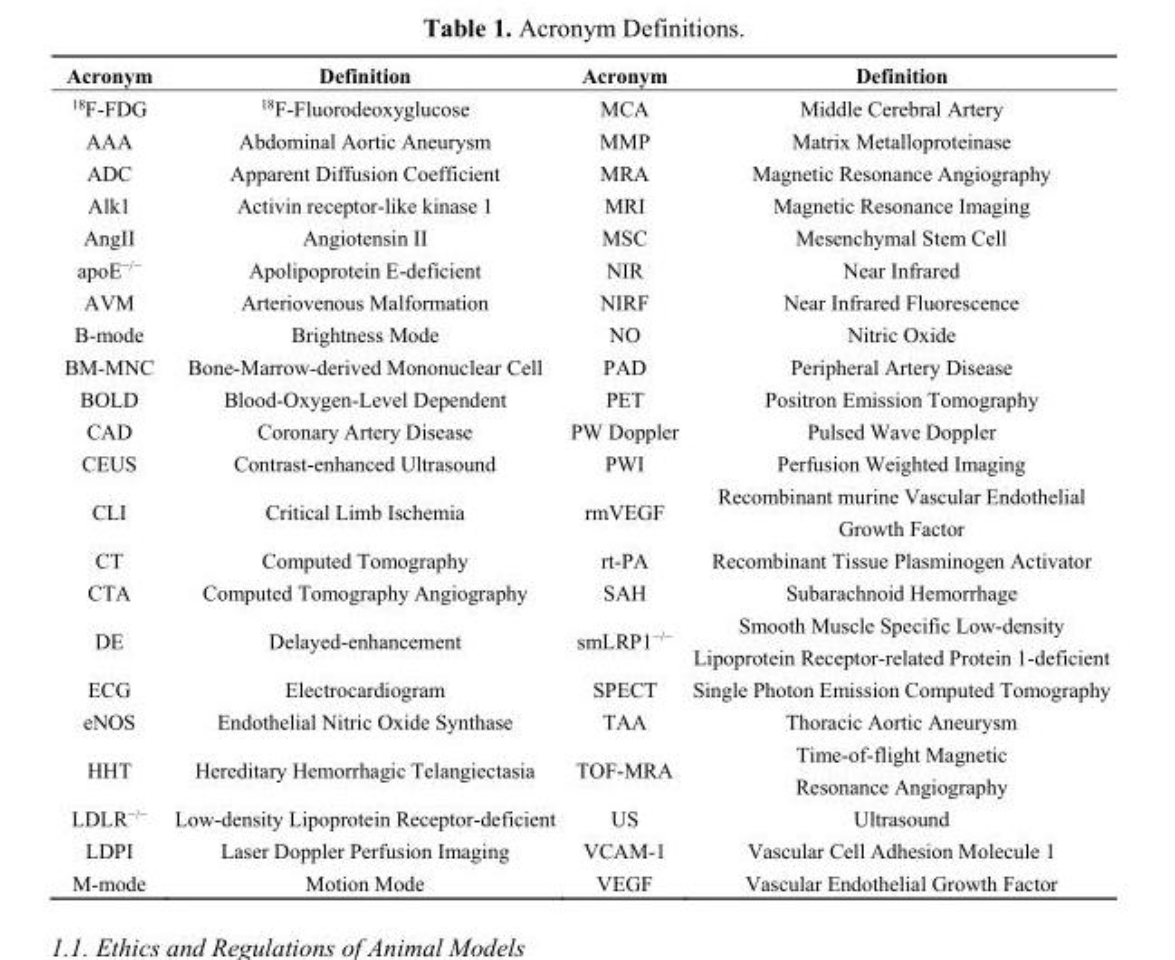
<table><thead><tr><td>Acronym</td><td>Definition</td><td>Acronym</td><td>Definition</td></tr></thead><tbody><tr><td><sup>18</sup>F-FDG</td><td><sup>18</sup>F-Fluorodeoxyglucose</td><td>MCA</td><td>Middle Cerebral Artery</td></tr><tr><td>AAA</td><td>Abdominal Aortic Aneurysm</td><td>MMP</td><td>Matrix Metalloproteinase</td></tr><tr><td>ADC</td><td>Apparent Diffusion Coefficient</td><td>MRA</td><td>Magnetic Resonance Angiography</td></tr><tr><td>Alk1</td><td>Activin receptor-like kinase 1</td><td>MRI</td><td>Magnetic Resonance Imaging</td></tr><tr><td>AngII</td><td>Angiotensin II</td><td>MSC</td><td>Mesenchymal Stem Cell</td></tr><tr><td>apoE<sup>−/−</sup></td><td>Apolipoprotein E-deficient</td><td>NIR</td><td>Near Infrared</td></tr><tr><td>AVM</td><td>Arteriovenous Malformation</td><td>NIRF</td><td>Near Infrared Fluorescence</td></tr><tr><td>B-mode</td><td>Brightness Mode</td><td>NO</td><td>Nitric Oxide</td></tr><tr><td>BM-MNC</td><td>Bone-Marrow-derived Mononuclear Cell</td><td>PAD</td><td>Peripheral Artery Disease</td></tr><tr><td>BOLD</td><td>Blood-Oxygen-Level Dependent</td><td>PET</td><td>Positron Emission Tomography</td></tr><tr><td>CAD</td><td>Coronary Artery Disease</td><td>PW Doppler</td><td>Pulsed Wave Doppler</td></tr><tr><td>CEUS</td><td>Contrast-enhanced Ultrasound</td><td>PWI</td><td>Perfusion Weighted Imaging</td></tr><tr><td>CLI</td><td>Critical Limb Ischemia</td><td>rmVEGF</td><td>Recombinant murine Vascular Endothelial Growth Factor</td></tr><tr><td>CT</td><td>Computed Tomography</td><td>rt-PA</td><td>Recombinant Tissue Plasminogen Activator</td></tr><tr><td>CTA</td><td>Computed Tomography Angiography</td><td>SAH</td><td>Subarachnoid Hemorrhage</td></tr><tr><td>DE</td><td>Delayed-enhancement</td><td>smLRP1<sup>−/−</sup></td><td>Smooth Muscle Specific Low-density Lipoprotein Receptor-related Protein 1-deficient</td></tr><tr><td>ECG</td><td>Electrocardiogram</td><td>SPECT</td><td>Single Photon Emission Computed Tomography</td></tr><tr><td>eNOS</td><td>Endothelial Nitric Oxide Synthase</td><td>TAA</td><td>Thoracic Aortic Aneurysm</td></tr><tr><td>HHT</td><td>Hereditary Hemorrhagic Telangiectasia</td><td>TOF-MRA</td><td>Time-of-flight Magnetic Resonance Angiography</td></tr><tr><td>LDLR<sup>−/−</sup></td><td>Low-density Lipoprotein Receptor-deficient</td><td>US</td><td>Ultrasound</td></tr><tr><td>LDPI</td><td>Laser Doppler Perfusion Imaging</td><td>VCAM-1</td><td>Vascular Cell Adhesion Molecule 1</td></tr><tr><td>M-mode</td><td>Motion Mode</td><td>VEGF</td><td>Vascular Endothelial Growth Factor</td></tr></tbody></table>